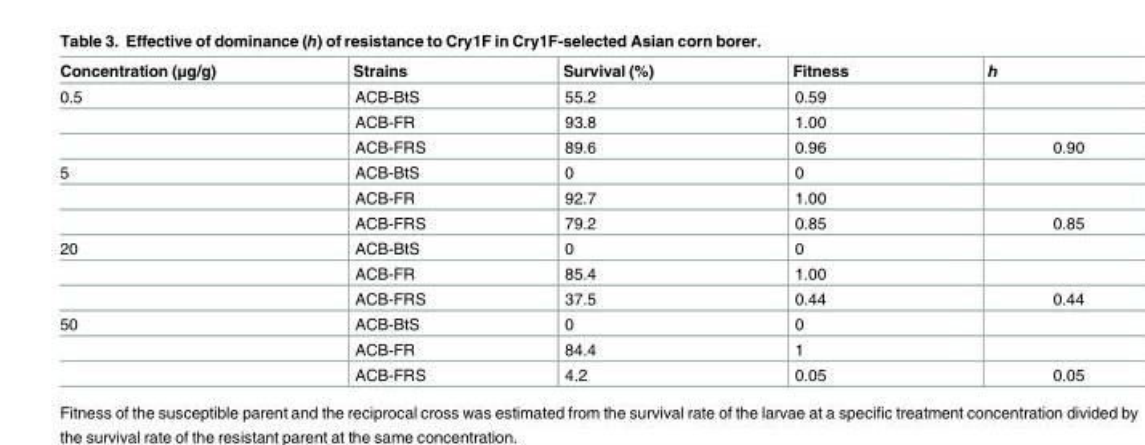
<table><thead><tr><td>Concentration (μg/g)</td><td>Strains</td><td>Survival (%)</td><td>Fitness</td><td>h</td></tr></thead><tbody><tr><td rowspan="3">0.5</td><td>ACB-BtS</td><td>55.2</td><td>0.59</td><td></td></tr><tr><td>ACB-FR</td><td>93.8</td><td>1.00</td><td></td></tr><tr><td>ACB-FRS</td><td>89.6</td><td>0.96</td><td>0.90</td></tr><tr><td rowspan="3">5</td><td>ACB-BtS</td><td>0</td><td>0</td><td></td></tr><tr><td>ACB-FR</td><td>92.7</td><td>1.00</td><td></td></tr><tr><td>ACB-FRS</td><td>79.2</td><td>0.85</td><td>0.85</td></tr><tr><td rowspan="3">20</td><td>ACB-BtS</td><td>0</td><td>0</td><td></td></tr><tr><td>ACB-FR</td><td>85.4</td><td>1.00</td><td></td></tr><tr><td>ACB-FRS</td><td>37.5</td><td>0.44</td><td>0.44</td></tr><tr><td rowspan="3">50</td><td>ACB-BtS</td><td>0</td><td>0</td><td></td></tr><tr><td>ACB-FR</td><td>84.4</td><td>1</td><td></td></tr><tr><td>ACB-FRS</td><td>4.2</td><td>0.05</td><td>0.05</td></tr></tbody></table>